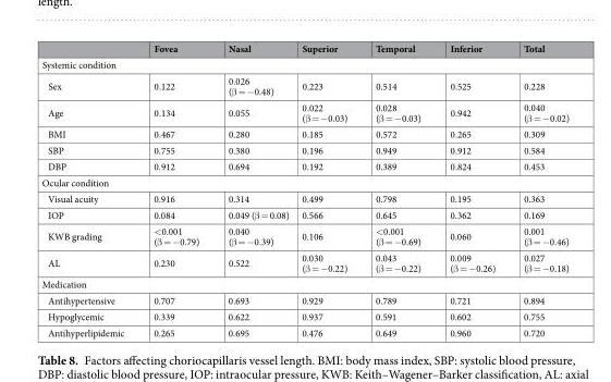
<table><thead><tr><td></td><td>Fovea</td><td>Nasal</td><td>Superior</td><td>Temporal</td><td>Inferior</td><td>Total</td></tr></thead><tbody><tr><td colspan="7">Systemic condition</td></tr><tr><td>Sex</td><td>0.122</td><td>0.026 (β = −0.48)</td><td>0.223</td><td>0.514</td><td>0.525</td><td>0.228</td></tr><tr><td>Age</td><td>0.134</td><td>0.055</td><td>0.022 (β = −0.03)</td><td>0.028 (β = −0.03)</td><td>0.942</td><td>0.040 (β = −0.02)</td></tr><tr><td>BMI</td><td>0.467</td><td>0.280</td><td>0.185</td><td>0.572</td><td>0.265</td><td>0.309</td></tr><tr><td>SBP</td><td>0.755</td><td>0.380</td><td>0.196</td><td>0.949</td><td>0.912</td><td>0.584</td></tr><tr><td>DBP</td><td>0.912</td><td>0.694</td><td>0.192</td><td>0.389</td><td>0.824</td><td>0.453</td></tr><tr><td colspan="7">Ocular condition</td></tr><tr><td>Visual acuity</td><td>0.916</td><td>0.314</td><td>0.499</td><td>0.798</td><td>0.195</td><td>0.363</td></tr><tr><td>IOP</td><td>0.084</td><td>0.049 (β = 0.08)</td><td>0.566</td><td>0.645</td><td>0.362</td><td>0.169</td></tr><tr><td>KWB grading</td><td>&lt;0.001 (β = −0.79)</td><td>0.040 (β = −0.39)</td><td>0.106</td><td>&lt;0.001 (β = −0.69)</td><td>0.060</td><td>0.001 (β = −0.46)</td></tr><tr><td>AL</td><td>0.230</td><td>0.522</td><td>0.030 (β = −0.22)</td><td>0.043 (β = −0.22)</td><td>0.009 (β = −0.26)</td><td>0.027 (β = −0.18)</td></tr><tr><td colspan="7">Medication</td></tr><tr><td>Antihypertensive</td><td>0.707</td><td>0.693</td><td>0.929</td><td>0.789</td><td>0.721</td><td>0.894</td></tr><tr><td>Hypoglycemic</td><td>0.339</td><td>0.622</td><td>0.937</td><td>0.591</td><td>0.602</td><td>0.755</td></tr><tr><td>Antihyperlipidemic</td><td>0.265</td><td>0.695</td><td>0.476</td><td>0.649</td><td>0.960</td><td>0.720</td></tr></tbody></table>